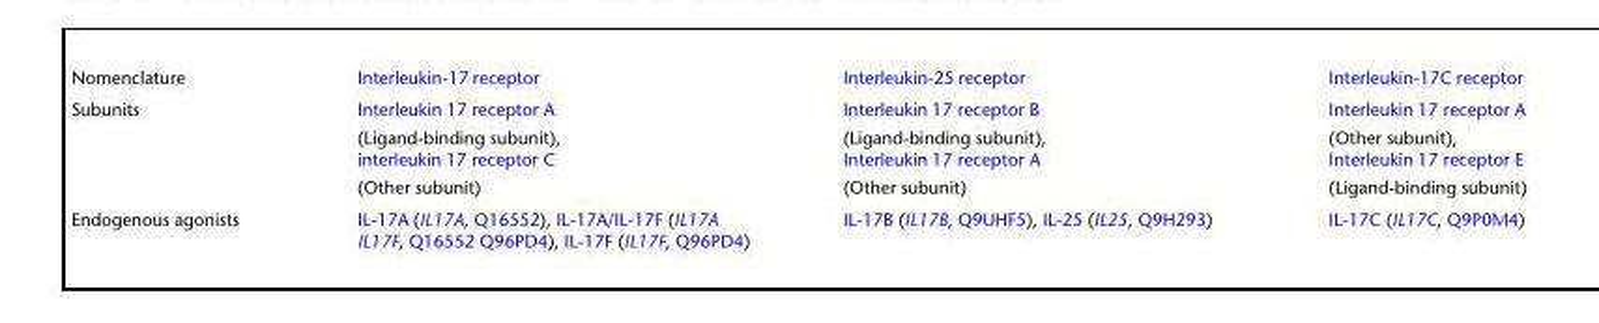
<table><tbody><tr><td>Nomenclature</td><td>Interleukin-17 receptor</td><td>Interleukin-25 receptor</td><td>Interleukin-17C receptor</td></tr><tr><td>Subunits</td><td>Interleukin 17 receptor A (Ligand-binding subunit), interleukin 17 receptor C (Other subunit)</td><td>Interleukin 17 receptor B (Ligand-binding subunit), Interleukin 17 receptor A (Other subunit)</td><td>Interleukin 17 receptor A (Other subunit), Interleukin 17 receptor E (Ligand-binding subunit)</td></tr><tr><td>Endogenous agonists</td><td>IL-17A (IL17A, Q16552), IL-17A/IL-17F (IL17A IL17F, Q16552 Q96PD4), IL-17F (IL17F, Q96PD4)</td><td>IL-17B (IL17B, Q9UHF5), IL-25 (IL25, Q9H293)</td><td>IL-17C (IL17C, Q9P0M4)</td></tr></tbody></table>